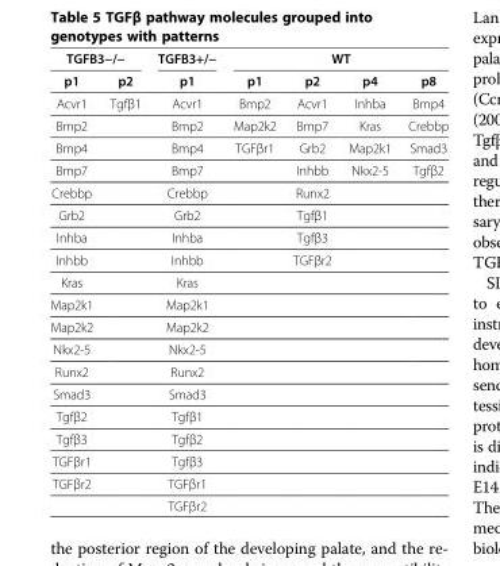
<table><thead><tr><td colspan="2">TGFΒ3−/−</td><td rowspan="2">TGFΒ3+/− p1</td><td colspan="4">WT</td></tr><tr><td>p1</td><td>p2</td><td>p1</td><td>p2</td><td>p4</td><td>p8</td></tr></thead><tbody><tr><td>Acvr1</td><td>Tgfβ1</td><td>Acvr1</td><td>Bmp2</td><td>Acvr1</td><td>Inhba</td><td>Bmp4</td></tr><tr><td>Bmp2</td><td></td><td>Bmp2</td><td>Map2k2</td><td>Bmp7</td><td>Kras</td><td>Crebbp</td></tr><tr><td>Bmp4</td><td></td><td>Bmp4</td><td>TGFβr1</td><td>Grb2</td><td>Map2k1</td><td>Smad3</td></tr><tr><td>Bmp7</td><td></td><td>Bmp7</td><td></td><td>Inhbb</td><td>Nkx2-5</td><td>Tgfβ2</td></tr><tr><td>Crebbp</td><td></td><td>Crebbp</td><td></td><td>Runx2</td><td></td><td></td></tr><tr><td>Grb2</td><td></td><td>Grb2</td><td></td><td>Tgfβ1</td><td></td><td></td></tr><tr><td>Inhba</td><td></td><td>Inhba</td><td></td><td>Tgfβ3</td><td></td><td></td></tr><tr><td>Inhbb</td><td></td><td>Inhbb</td><td></td><td>TGFβr2</td><td></td><td></td></tr><tr><td>Kras</td><td></td><td>Kras</td><td></td><td></td><td></td><td></td></tr><tr><td>Map2k1</td><td></td><td>Map2k1</td><td></td><td></td><td></td><td></td></tr><tr><td>Map2k2</td><td></td><td>Map2k2</td><td></td><td></td><td></td><td></td></tr><tr><td>Nkx2-5</td><td></td><td>Nkx2-5</td><td></td><td></td><td></td><td></td></tr><tr><td>Runx2</td><td></td><td>Runx2</td><td></td><td></td><td></td><td></td></tr><tr><td>Smad3</td><td></td><td>Smad3</td><td></td><td></td><td></td><td></td></tr><tr><td>Tgfβ2</td><td></td><td>Tgfβ1</td><td></td><td></td><td></td><td></td></tr><tr><td>Tgfβ3</td><td></td><td>Tgfβ2</td><td></td><td></td><td></td><td></td></tr><tr><td>TGFβr1</td><td></td><td>Tgfβ3</td><td></td><td></td><td></td><td></td></tr><tr><td rowspan="2">TGFβr2</td><td></td><td>TGFβr1</td><td></td><td></td><td></td><td></td></tr><tr><td></td><td>TGFβr2</td><td></td><td></td><td></td><td></td></tr></tbody></table>